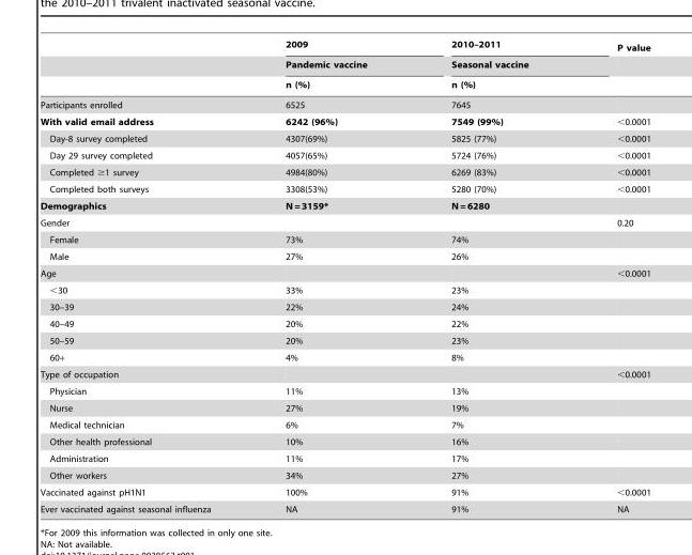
<table><thead><tr><td rowspan="3"></td><td rowspan="3">2009 Pandemic vaccine n (%)</td><td rowspan="3">2010–2011 Seasonal vaccine n (%)</td><td rowspan="3">P value</td></tr><tr></tr><tr></tr></thead><tbody><tr><td>Participants enrolled</td><td>6525</td><td>7645</td><td></td></tr><tr><td>With valid email address</td><td>6242 (96%)</td><td>7549 (99%)</td><td>&lt;0.0001</td></tr><tr><td>Day-8 survey completed</td><td>4307(69%)</td><td>5825 (77%)</td><td>&lt;0.0001</td></tr><tr><td>Day 29 survey completed</td><td>4057(65%)</td><td>5724 (76%)</td><td>&lt;0.0001</td></tr><tr><td>Completed ≥1 survey</td><td>4984(80%)</td><td>6269 (83%)</td><td>&lt;0.0001</td></tr><tr><td>Completed both surveys</td><td>3308(53%)</td><td>5280 (70%)</td><td>&lt;0.0001</td></tr><tr><td>Demographics</td><td>N = 3159*</td><td>N = 6280</td><td></td></tr><tr><td>Gender</td><td></td><td></td><td>0.20</td></tr><tr><td>Female</td><td>73%</td><td>74%</td><td></td></tr><tr><td>Male</td><td>27%</td><td>26%</td><td></td></tr><tr><td>Age</td><td></td><td></td><td>&lt;0.0001</td></tr><tr><td>&lt;30</td><td>33%</td><td>23%</td><td></td></tr><tr><td>30–39</td><td>22%</td><td>24%</td><td></td></tr><tr><td>40–49</td><td>20%</td><td>22%</td><td></td></tr><tr><td>50–59</td><td>20%</td><td>23%</td><td></td></tr><tr><td>60+</td><td>4%</td><td>8%</td><td></td></tr><tr><td>Type of occupation</td><td></td><td></td><td>&lt;0.0001</td></tr><tr><td>Physician</td><td>11%</td><td>13%</td><td></td></tr><tr><td>Nurse</td><td>27%</td><td>19%</td><td></td></tr><tr><td>Medical technician</td><td>6%</td><td>7%</td><td></td></tr><tr><td>Other health professional</td><td>10%</td><td>16%</td><td></td></tr><tr><td>Administration</td><td>11%</td><td>17%</td><td></td></tr><tr><td>Other workers</td><td>34%</td><td>27%</td><td></td></tr><tr><td>Vaccinated against pH1N1</td><td>100%</td><td>91%</td><td>&lt;0.0001</td></tr><tr><td>Ever vaccinated against seasonal influenza</td><td>NA</td><td>91%</td><td>NA</td></tr></tbody></table>